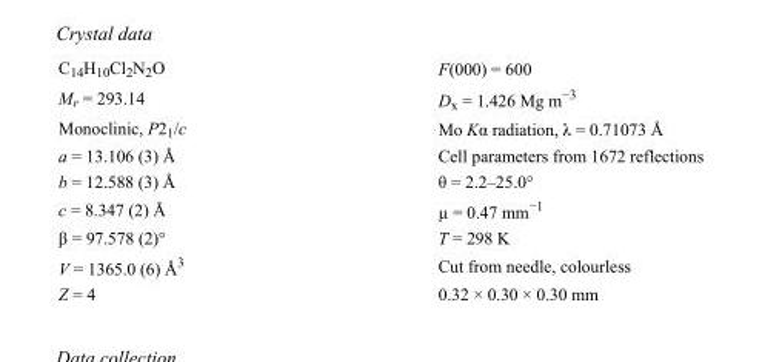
<table><tbody><tr><td>C<sub>14</sub>H<sub>10</sub>Cl<sub>2</sub>N<sub>2</sub>O</td><td>F(000) = 600</td></tr><tr><td>M<sub>r</sub> = 293.14</td><td>D<sub>x</sub> = 1.426 Mg m<sup>−3</sup></td></tr><tr><td>Monoclinic, P2<sub>1</sub>/c</td><td>Mo Kα radiation, λ = 0.71073 Å</td></tr><tr><td>a = 13.106 (3) Å</td><td>Cell parameters from 1672 reflections</td></tr><tr><td>b = 12.588 (3) Å</td><td>θ = 2.2–25.0°</td></tr><tr><td>c = 8.347 (2) Å</td><td>µ = 0.47 mm<sup>−1</sup></td></tr><tr><td>β = 97.578 (2)°</td><td>T = 298 K</td></tr><tr><td>V = 1365.0 (6) Å<sup>3</sup></td><td>Cut from needle, colourless</td></tr><tr><td>Z = 4</td><td>0.32 × 0.30 × 0.30 mm</td></tr></tbody></table>